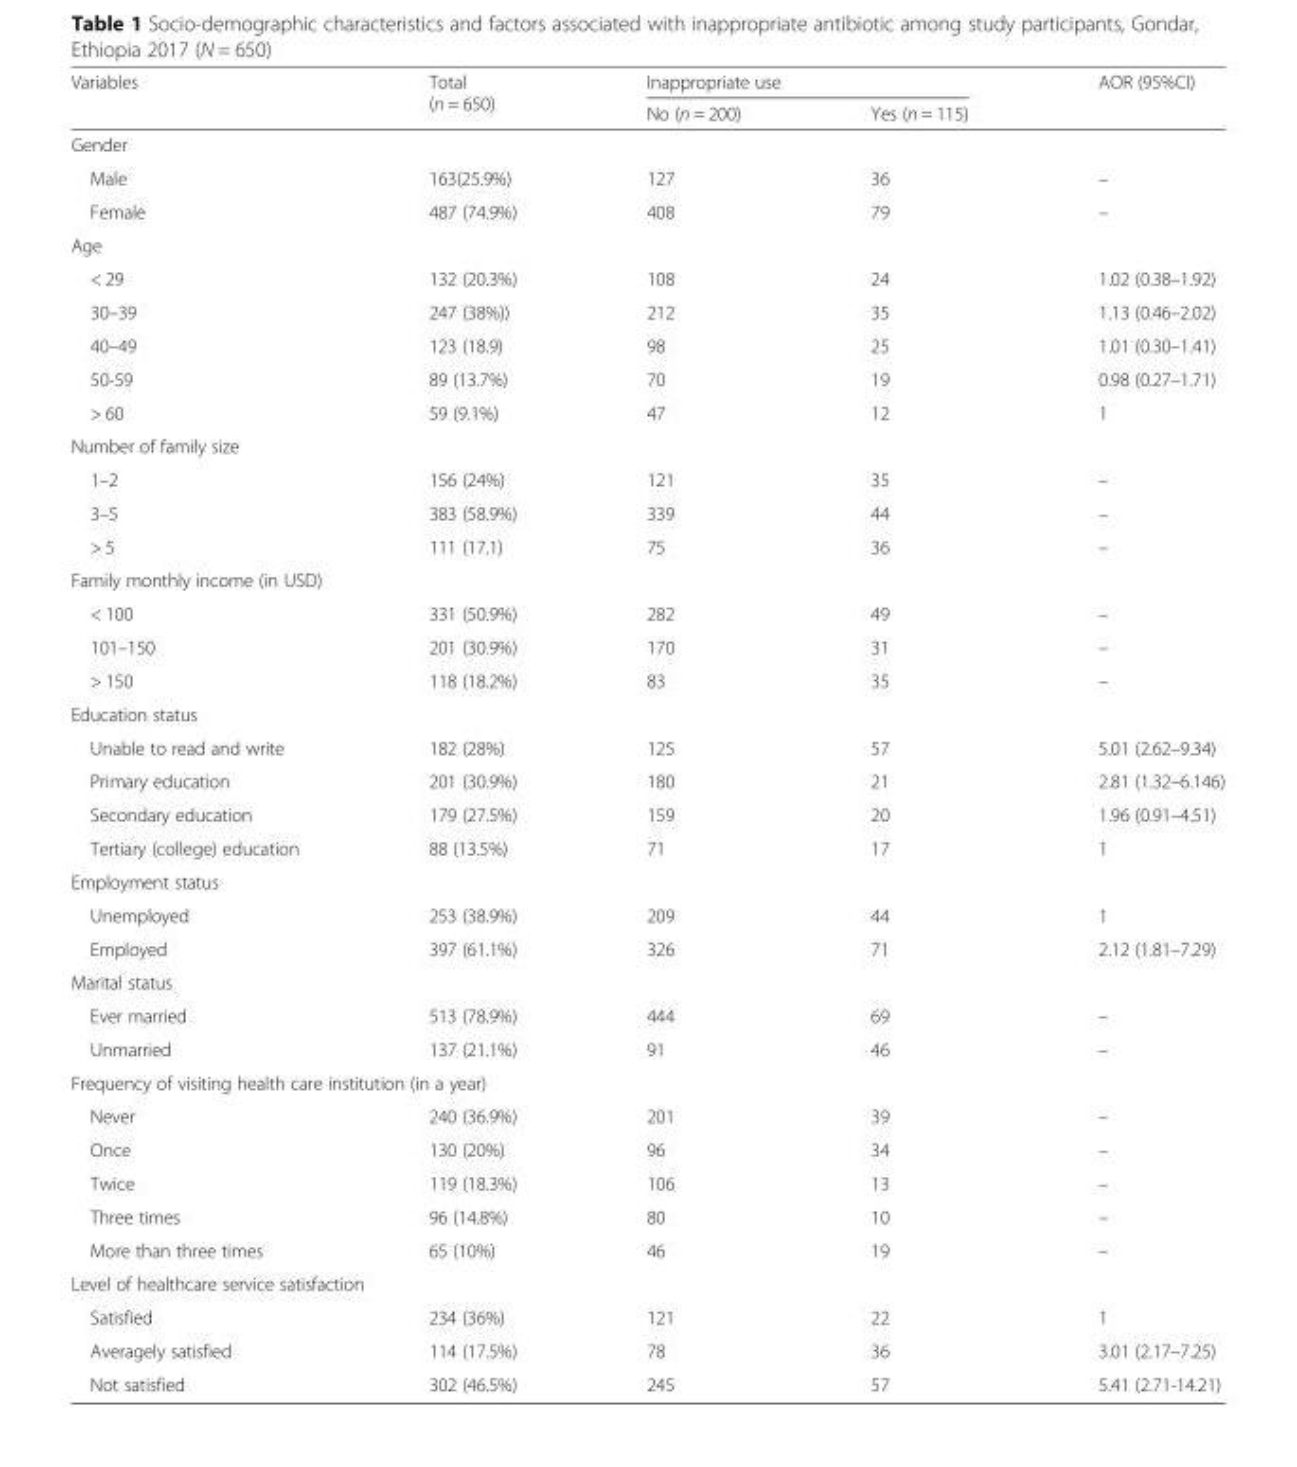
<table><thead><tr><td rowspan="2">Variables</td><td rowspan="2">Total (n = 650)</td><td colspan="2">Inappropriate use</td><td rowspan="2">AOR (95%CI)</td></tr><tr><td>No (n = 200)</td><td>Yes (n = 115)</td></tr></thead><tbody><tr><td colspan="5">Gender</td></tr><tr><td>Male</td><td>163(25.9%)</td><td>127</td><td>36</td><td>–</td></tr><tr><td>Female</td><td>487 (74.9%)</td><td>408</td><td>79</td><td>–</td></tr><tr><td colspan="5">Age</td></tr><tr><td>&lt; 29</td><td>132 (20.3%)</td><td>108</td><td>24</td><td>1.02 (0.38–1.92)</td></tr><tr><td>30–39</td><td>247 (38%))</td><td>212</td><td>35</td><td>1.13 (0.46–2.02)</td></tr><tr><td>40–49</td><td>123 (18.9)</td><td>98</td><td>25</td><td>1.01 (0.30–1.41)</td></tr><tr><td>50-59</td><td>89 (13.7%)</td><td>70</td><td>19</td><td>0.98 (0.27–1.71)</td></tr><tr><td>&gt; 60</td><td>59 (9.1%)</td><td>47</td><td>12</td><td>1</td></tr><tr><td colspan="5">Number of family size</td></tr><tr><td>1–2</td><td>156 (24%)</td><td>121</td><td>35</td><td>–</td></tr><tr><td>3–5</td><td>383 (58.9%)</td><td>339</td><td>44</td><td>–</td></tr><tr><td>&gt; 5</td><td>111 (17.1)</td><td>75</td><td>36</td><td>–</td></tr><tr><td colspan="5">Family monthly income (in USD)</td></tr><tr><td>&lt; 100</td><td>331 (50.9%)</td><td>282</td><td>49</td><td>–</td></tr><tr><td>101–150</td><td>201 (30.9%)</td><td>170</td><td>31</td><td>–</td></tr><tr><td>&gt; 150</td><td>118 (18.2%)</td><td>83</td><td>35</td><td>–</td></tr><tr><td colspan="5">Education status</td></tr><tr><td>Unable to read and write</td><td>182 (28%)</td><td>125</td><td>57</td><td>5.01 (2.62–9.34)</td></tr><tr><td>Primary education</td><td>201 (30.9%)</td><td>180</td><td>21</td><td>2.81 (1.32–6.146)</td></tr><tr><td>Secondary education</td><td>179 (27.5%)</td><td>159</td><td>20</td><td>1.96 (0.91–4.51)</td></tr><tr><td>Tertiary (college) education</td><td>88 (13.5%)</td><td>71</td><td>17</td><td>1</td></tr><tr><td colspan="5">Employment status</td></tr><tr><td>Unemployed</td><td>253 (38.9%)</td><td>209</td><td>44</td><td>1</td></tr><tr><td>Employed</td><td>397 (61.1%)</td><td>326</td><td>71</td><td>2.12 (1.81–7.29)</td></tr><tr><td colspan="5">Marital status</td></tr><tr><td>Ever married</td><td>513 (78.9%)</td><td>444</td><td>69</td><td>–</td></tr><tr><td>Unmarried</td><td>137 (21.1%)</td><td>91</td><td>46</td><td>–</td></tr><tr><td colspan="5">Frequency of visiting health care institution (in a year)</td></tr><tr><td>Never</td><td>240 (36.9%)</td><td>201</td><td>39</td><td>–</td></tr><tr><td>Once</td><td>130 (20%)</td><td>96</td><td>34</td><td>–</td></tr><tr><td>Twice</td><td>119 (18.3%)</td><td>106</td><td>13</td><td>–</td></tr><tr><td>Three times</td><td>96 (14.8%)</td><td>80</td><td>10</td><td>–</td></tr><tr><td>More than three times</td><td>65 (10%)</td><td>46</td><td>19</td><td>–</td></tr><tr><td colspan="5">Level of healthcare service satisfaction</td></tr><tr><td>Satisfied</td><td>234 (36%)</td><td>121</td><td>22</td><td>1</td></tr><tr><td>Averagely satisfied</td><td>114 (17.5%)</td><td>78</td><td>36</td><td>3.01 (2.17–7.25)</td></tr><tr><td>Not satisfied</td><td>302 (46.5%)</td><td>245</td><td>57</td><td>5.41 (2.71-14.21)</td></tr></tbody></table>